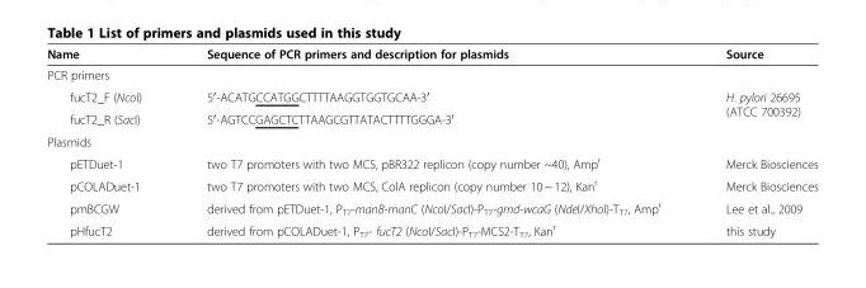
<table><thead><tr><td>Name</td><td>Sequence of PCR primers and description for plasmids</td><td>Source</td></tr></thead><tbody><tr><td colspan="3">PCR primers</td></tr><tr><td>fucT2_F (NcoI)</td><td>5′-ACATGCCATGGCTTTTAAGGTGGTGCAA-3′</td><td rowspan="2">H. pylori 26695 (ATCC 700392)</td></tr><tr><td>fucT2_R (SacI)</td><td>5′-AGTCCGAGCTCTTAAGCGTTATACTTTTGGGA-3′</td></tr><tr><td colspan="3">Plasmids</td></tr><tr><td>pETDuet-1</td><td>two T7 promoters with two MCS, pBR322 replicon (copy number ~40), Amp<sup>r</sup></td><td>Merck Biosciences</td></tr><tr><td>pCOLADuet-1</td><td>two T7 promoters with two MCS, ColA replicon (copy number 10 ~ 12), Kan<sup>r</sup></td><td>Merck Biosciences</td></tr><tr><td>pmBCGW</td><td>derived from pETDuet-1, P<sub>T7</sub>-manB-manC (NcoI/SacI)-P<sub>T7</sub>-gmd-wcaG (NdeI/XhoI)-T<sub>T7</sub>, Amp<sup>r</sup></td><td>Lee et al., 2009</td></tr><tr><td>pHfucT2</td><td>derived from pCOLADuet-1, P<sub>T7</sub>- fucT2 (NcoI/SacI)-P<sub>T7</sub>-MCS2-T<sub>T7</sub>, Kan<sup>r</sup></td><td>this study</td></tr></tbody></table>